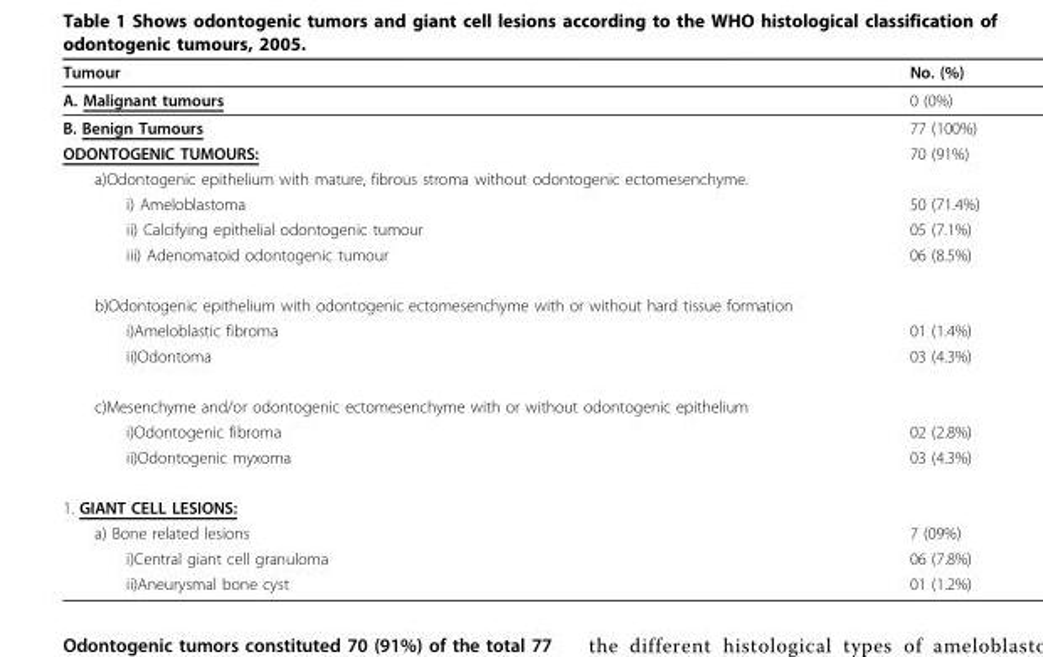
<table><thead><tr><td>Tumour</td><td>No. (%)</td></tr></thead><tbody><tr><td>A. Malignant tumours</td><td>0 (0%)</td></tr><tr><td>B. Benign Tumours</td><td>77 (100%)</td></tr><tr><td>ODONTOGENIC TUMOURS:</td><td>70 (91%)</td></tr><tr><td colspan="2">a)Odontogenic epithelium with mature, fibrous stroma without odontogenic ectomesenchyme.</td></tr><tr><td>i) Ameloblastoma</td><td>50 (71.4%)</td></tr><tr><td>ii) Calcifying epithelial odontogenic tumour</td><td>05 (7.1%)</td></tr><tr><td>iii) Adenomatoid odontogenic tumour</td><td>06 (8.5%)</td></tr><tr><td colspan="2">b)Odontogenic epithelium with odontogenic ectomesenchyme with or without hard tissue formation</td></tr><tr><td>i)Ameloblastic fibroma</td><td>01 (1.4%)</td></tr><tr><td>ii)Odontoma</td><td>03 (4.3%)</td></tr><tr><td colspan="2">c)Mesenchyme and/or odontogenic ectomesenchyme with or without odontogenic epithelium</td></tr><tr><td>i)Odontogenic fibroma</td><td>02 (2.8%)</td></tr><tr><td>ii)Odontogenic myxoma</td><td>03 (4.3%)</td></tr><tr><td colspan="2">1. GIANT CELL LESIONS:</td></tr><tr><td>a) Bone related lesions</td><td>7 (09%)</td></tr><tr><td>i)Central giant cell granuloma</td><td>06 (7.8%)</td></tr><tr><td>ii)Aneurysmal bone cyst</td><td>01 (1.2%)</td></tr></tbody></table>